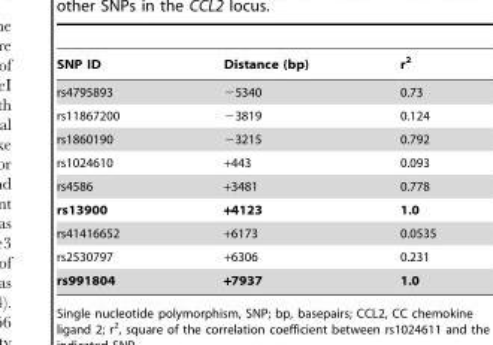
<table><thead><tr><td>SNP ID</td><td>Distance (bp)</td><td>r<sup>2</sup></td></tr></thead><tbody><tr><td>rs4795893</td><td>−5340</td><td>0.73</td></tr><tr><td>rs11867200</td><td>−3819</td><td>0.124</td></tr><tr><td>rs1860190</td><td>−3215</td><td>0.792</td></tr><tr><td>rs1024610</td><td>+443</td><td>0.093</td></tr><tr><td>rs4586</td><td>+3481</td><td>0.778</td></tr><tr><td>rs13900</td><td>+4123</td><td>1.0</td></tr><tr><td>rs41416652</td><td>+6173</td><td>0.0535</td></tr><tr><td>rs2530797</td><td>+6306</td><td>0.231</td></tr><tr><td>rs991804</td><td>+7937</td><td>1.0</td></tr></tbody></table>